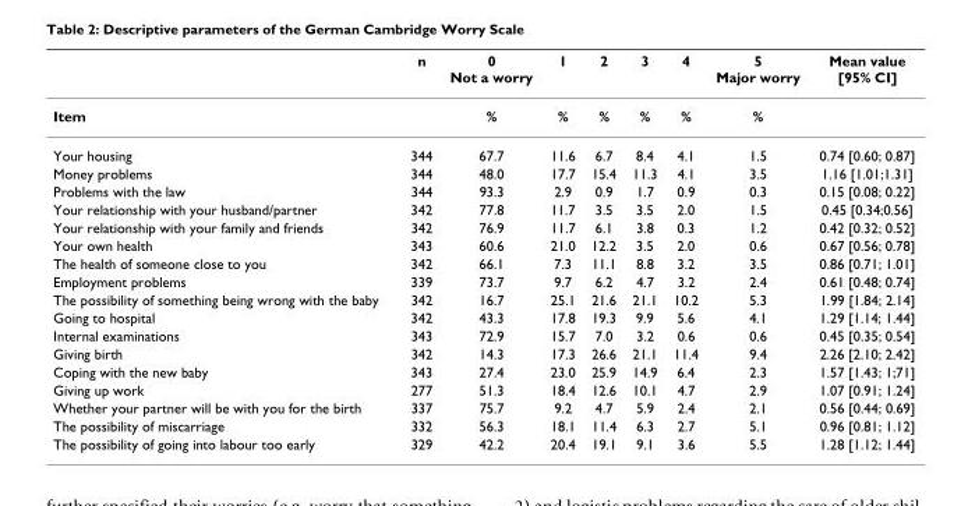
<table><thead><tr><td></td><td>n</td><td>0 Not a worry</td><td>1</td><td>2</td><td>3</td><td>4</td><td>5 Major worry</td><td>Mean value [95% CI]</td></tr></thead><tbody><tr><td>Item</td><td></td><td>%</td><td>%</td><td>%</td><td>%</td><td>%</td><td>%</td><td></td></tr><tr><td>Your housing</td><td>344</td><td>67.7</td><td>11.6</td><td>6.7</td><td>8.4</td><td>4.1</td><td>1.5</td><td>0.74 [0.60; 0.87]</td></tr><tr><td>Money problems</td><td>344</td><td>48.0</td><td>17.7</td><td>15.4</td><td>11.3</td><td>4.1</td><td>3.5</td><td>1.16 [1.01;1.31]</td></tr><tr><td>Problems with the law</td><td>344</td><td>93.3</td><td>2.9</td><td>0.9</td><td>1.7</td><td>0.9</td><td>0.3</td><td>0.15 [0.08; 0.22]</td></tr><tr><td>Your relationship with your husband/partner</td><td>342</td><td>77.8</td><td>11.7</td><td>3.5</td><td>3.5</td><td>2.0</td><td>1.5</td><td>0.45 [0.34;0.56]</td></tr><tr><td>Your relationship with your family and friends</td><td>342</td><td>76.9</td><td>11.7</td><td>6.1</td><td>3.8</td><td>0.3</td><td>1.2</td><td>0.42 [0.32; 0.52]</td></tr><tr><td>Your own health</td><td>343</td><td>60.6</td><td>21.0</td><td>12.2</td><td>3.5</td><td>2.0</td><td>0.6</td><td>0.67 [0.56; 0.78]</td></tr><tr><td>The health of someone close to you</td><td>342</td><td>66.1</td><td>7.3</td><td>11.1</td><td>8.8</td><td>3.2</td><td>3.5</td><td>0.86 [0.71; 1.01]</td></tr><tr><td>Employment problems</td><td>339</td><td>73.7</td><td>9.7</td><td>6.2</td><td>4.7</td><td>3.2</td><td>2.4</td><td>0.61 [0.48; 0.74]</td></tr><tr><td>The possibility of something being wrong with the baby</td><td>342</td><td>16.7</td><td>25.1</td><td>21.6</td><td>21.1</td><td>10.2</td><td>5.3</td><td>1.99 [1.84; 2.14]</td></tr><tr><td>Going to hospital</td><td>342</td><td>43.3</td><td>17.8</td><td>19.3</td><td>9.9</td><td>5.6</td><td>4.1</td><td>1.29 [1.14; 1.44]</td></tr><tr><td>Internal examinations</td><td>343</td><td>72.9</td><td>15.7</td><td>7.0</td><td>3.2</td><td>0.6</td><td>0.6</td><td>0.45 [0.35; 0.54]</td></tr><tr><td>Giving birth</td><td>342</td><td>14.3</td><td>17.3</td><td>26.6</td><td>21.1</td><td>11.4</td><td>9.4</td><td>2.26 [2.10; 2.42]</td></tr><tr><td>Coping with the new baby</td><td>343</td><td>27.4</td><td>23.0</td><td>25.9</td><td>14.9</td><td>6.4</td><td>2.3</td><td>1.57 [1.43; 1;71]</td></tr><tr><td>Giving up work</td><td>277</td><td>51.3</td><td>18.4</td><td>12.6</td><td>10.1</td><td>4.7</td><td>2.9</td><td>1.07 [0.91; 1.24]</td></tr><tr><td>Whether your partner will be with you for the birth</td><td>337</td><td>75.7</td><td>9.2</td><td>4.7</td><td>5.9</td><td>2.4</td><td>2.1</td><td>0.56 [0.44; 0.69]</td></tr><tr><td>The possibility of miscarriage</td><td>332</td><td>56.3</td><td>18.1</td><td>11.4</td><td>6.3</td><td>2.7</td><td>5.1</td><td>0.96 [0.81; 1.12]</td></tr><tr><td>The possibility of going into labour too early</td><td>329</td><td>42.2</td><td>20.4</td><td>19.1</td><td>9.1</td><td>3.6</td><td>5.5</td><td>1.28 [1.12; 1.44]</td></tr></tbody></table>